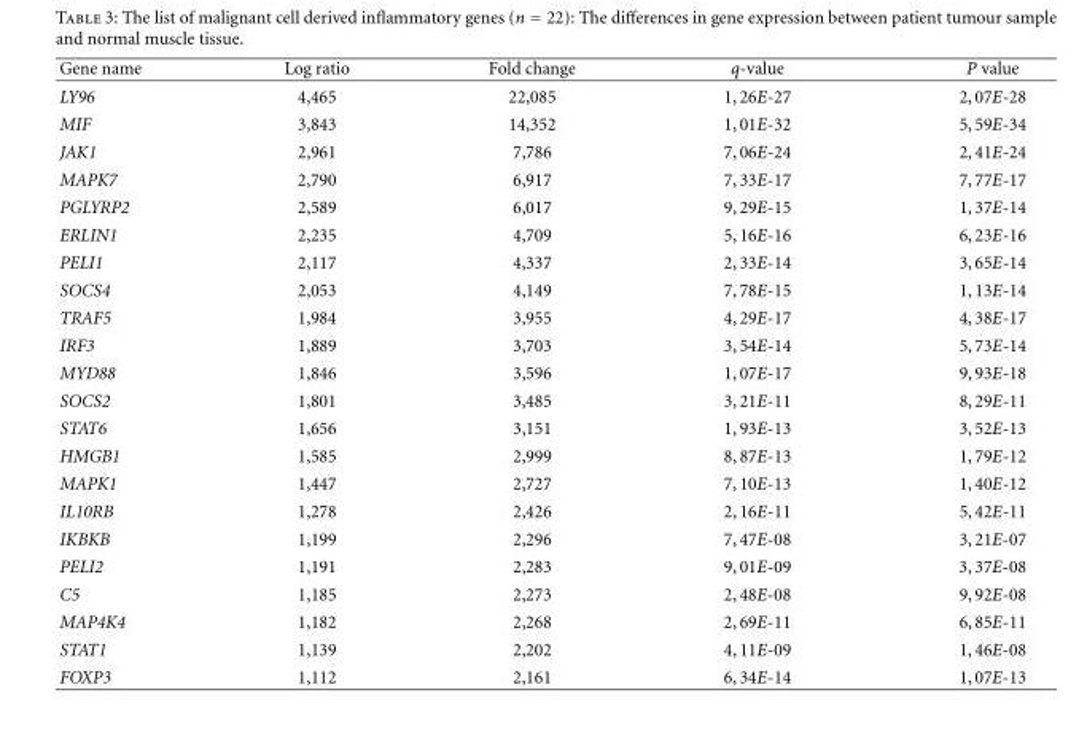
<table><thead><tr><td>Gene name</td><td>Log ratio</td><td>Fold change</td><td>q-value</td><td>P value</td></tr></thead><tbody><tr><td>LY96</td><td>4,465</td><td>22,085</td><td>1,26E-27</td><td>2,07E-28</td></tr><tr><td>MIF</td><td>3,843</td><td>14,352</td><td>1,01E-32</td><td>5,59E-34</td></tr><tr><td>JAK1</td><td>2,961</td><td>7,786</td><td>7,06E-24</td><td>2,41E-24</td></tr><tr><td>MAPK7</td><td>2,790</td><td>6,917</td><td>7,33E-17</td><td>7,77E-17</td></tr><tr><td>PGLYRP2</td><td>2,589</td><td>6,017</td><td>9,29E-15</td><td>1,37E-14</td></tr><tr><td>ERLIN1</td><td>2,235</td><td>4,709</td><td>5,16E-16</td><td>6,23E-16</td></tr><tr><td>PELI1</td><td>2,117</td><td>4,337</td><td>2,33E-14</td><td>3,65E-14</td></tr><tr><td>SOCS4</td><td>2,053</td><td>4,149</td><td>7,78E-15</td><td>1,13E-14</td></tr><tr><td>TRAF5</td><td>1,984</td><td>3,955</td><td>4,29E-17</td><td>4,38E-17</td></tr><tr><td>IRF3</td><td>1,889</td><td>3,703</td><td>3,54E-14</td><td>5,73E-14</td></tr><tr><td>MYD88</td><td>1,846</td><td>3,596</td><td>1,07E-17</td><td>9,93E-18</td></tr><tr><td>SOCS2</td><td>1,801</td><td>3,485</td><td>3,21E-11</td><td>8,29E-11</td></tr><tr><td>STAT6</td><td>1,656</td><td>3,151</td><td>1,93E-13</td><td>3,52E-13</td></tr><tr><td>HMGB1</td><td>1,585</td><td>2,999</td><td>8,87E-13</td><td>1,79E-12</td></tr><tr><td>MAPK1</td><td>1,447</td><td>2,727</td><td>7,10E-13</td><td>1,40E-12</td></tr><tr><td>IL10RB</td><td>1,278</td><td>2,426</td><td>2,16E-11</td><td>5,42E-11</td></tr><tr><td>IKBKB</td><td>1,199</td><td>2,296</td><td>7,47E-08</td><td>3,21E-07</td></tr><tr><td>PELI2</td><td>1,191</td><td>2,283</td><td>9,01E-09</td><td>3,37E-08</td></tr><tr><td>C5</td><td>1,185</td><td>2,273</td><td>2,48E-08</td><td>9,92E-08</td></tr><tr><td>MAP4K4</td><td>1,182</td><td>2,268</td><td>2,69E-11</td><td>6,85E-11</td></tr><tr><td>STAT1</td><td>1,139</td><td>2,202</td><td>4,11E-09</td><td>1,46E-08</td></tr><tr><td>FOXP3</td><td>1,112</td><td>2,161</td><td>6,34E-14</td><td>1,07E-13</td></tr></tbody></table>